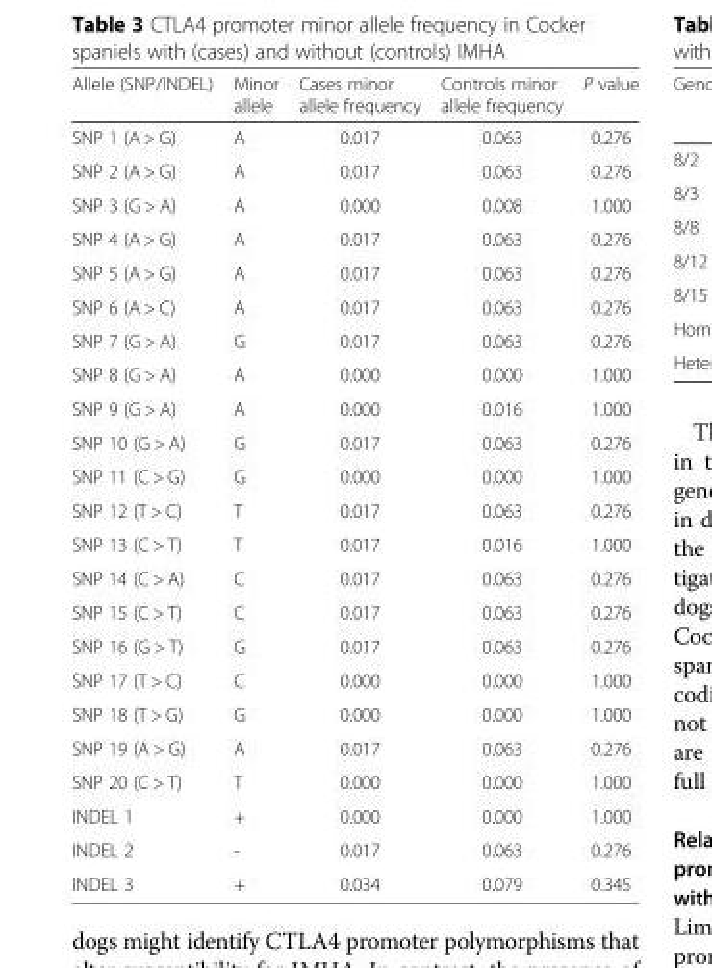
<table><thead><tr><td>Allele (SNP/INDEL)</td><td>Minor allele</td><td>Cases minor allele frequency</td><td>Controls minor allele frequency</td><td>P value</td></tr></thead><tbody><tr><td>SNP 1 (A &gt; G)</td><td>A</td><td>0.017</td><td>0.063</td><td>0.276</td></tr><tr><td>SNP 2 (A &gt; G)</td><td>A</td><td>0.017</td><td>0.063</td><td>0.276</td></tr><tr><td>SNP 3 (G &gt; A)</td><td>A</td><td>0.000</td><td>0.008</td><td>1.000</td></tr><tr><td>SNP 4 (A &gt; G)</td><td>A</td><td>0.017</td><td>0.063</td><td>0.276</td></tr><tr><td>SNP 5 (A &gt; G)</td><td>A</td><td>0.017</td><td>0.063</td><td>0.276</td></tr><tr><td>SNP 6 (A &gt; C)</td><td>A</td><td>0.017</td><td>0.063</td><td>0.276</td></tr><tr><td>SNP 7 (G &gt; A)</td><td>G</td><td>0.017</td><td>0.063</td><td>0.276</td></tr><tr><td>SNP 8 (G &gt; A)</td><td>A</td><td>0.000</td><td>0.000</td><td>1.000</td></tr><tr><td>SNP 9 (G &gt; A)</td><td>A</td><td>0.000</td><td>0.016</td><td>1.000</td></tr><tr><td>SNP 10 (G &gt; A)</td><td>G</td><td>0.017</td><td>0.063</td><td>0.276</td></tr><tr><td>SNP 11 (C &gt; G)</td><td>G</td><td>0.000</td><td>0.000</td><td>1.000</td></tr><tr><td>SNP 12 (T &gt; C)</td><td>T</td><td>0.017</td><td>0.063</td><td>0.276</td></tr><tr><td>SNP 13 (C &gt; T)</td><td>T</td><td>0.017</td><td>0.016</td><td>1.000</td></tr><tr><td>SNP 14 (C &gt; A)</td><td>C</td><td>0.017</td><td>0.063</td><td>0.276</td></tr><tr><td>SNP 15 (C &gt; T)</td><td>C</td><td>0.017</td><td>0.063</td><td>0.276</td></tr><tr><td>SNP 16 (G &gt; T)</td><td>G</td><td>0.017</td><td>0.063</td><td>0.276</td></tr><tr><td>SNP 17 (T &gt; C)</td><td>C</td><td>0.000</td><td>0.000</td><td>1.000</td></tr><tr><td>SNP 18 (T &gt; G)</td><td>G</td><td>0.000</td><td>0.000</td><td>1.000</td></tr><tr><td>SNP 19 (A &gt; G)</td><td>A</td><td>0.017</td><td>0.063</td><td>0.276</td></tr><tr><td>SNP 20 (C &gt; T)</td><td>T</td><td>0.000</td><td>0.000</td><td>1.000</td></tr><tr><td>INDEL 1</td><td>+</td><td>0.000</td><td>0.000</td><td>1.000</td></tr><tr><td>INDEL 2</td><td>-</td><td>0.017</td><td>0.063</td><td>0.276</td></tr><tr><td>INDEL 3</td><td>+</td><td>0.034</td><td>0.079</td><td>0.345</td></tr></tbody></table>